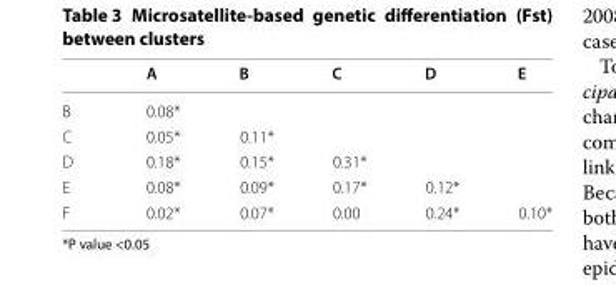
<table><thead><tr><td></td><td>A</td><td>B</td><td>C</td><td>D</td><td>E</td></tr></thead><tbody><tr><td>B</td><td>0.08*</td><td></td><td></td><td></td><td></td></tr><tr><td>C</td><td>0.05*</td><td>0.11*</td><td></td><td></td><td></td></tr><tr><td>D</td><td>0.18*</td><td>0.15*</td><td>0.31*</td><td></td><td></td></tr><tr><td>E</td><td>0.08*</td><td>0.09*</td><td>0.17*</td><td>0.12*</td><td></td></tr><tr><td>F</td><td>0.02*</td><td>0.07*</td><td>0.00</td><td>0.24*</td><td>0.10*</td></tr></tbody></table>